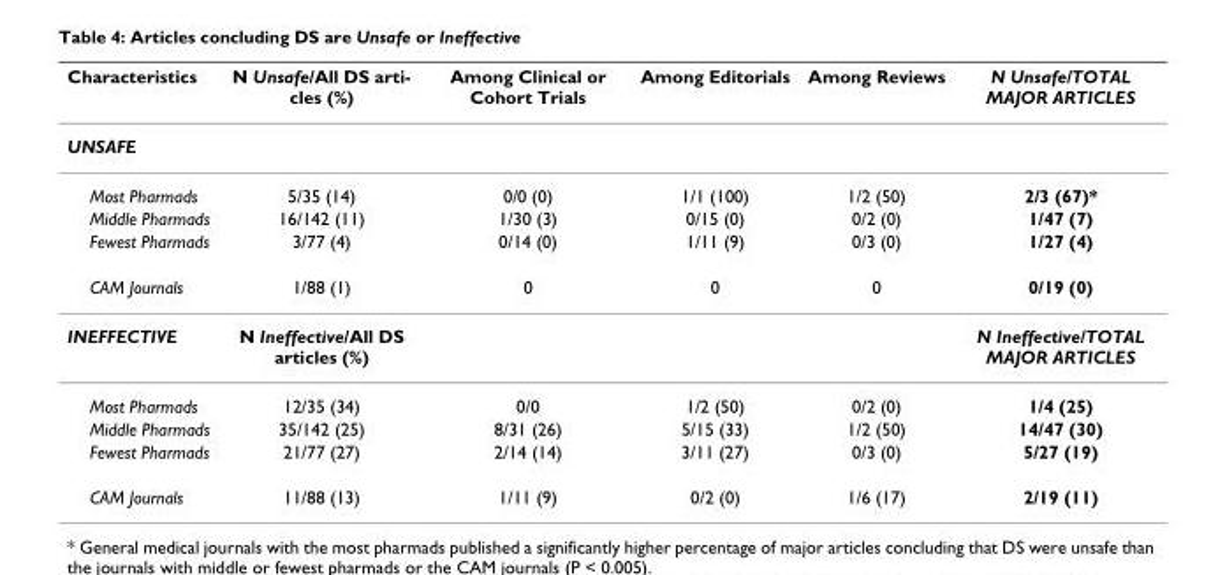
<table><thead><tr><td>Characteristics</td><td>N Unsafe/All DS arti- cles (%)</td><td>Among Clinical or Cohort Trials</td><td>Among Editorials</td><td>Among Reviews</td><td>N Unsafe/TOTAL MAJOR ARTICLES</td></tr></thead><tbody><tr><td colspan="6">UNSAFE</td></tr><tr><td>Most Pharmads</td><td>5/35 (14)</td><td>0/0 (0)</td><td>1/1 (100)</td><td>1/2 (50)</td><td>2/3 (67)*</td></tr><tr><td>Middle Pharmads</td><td>16/142 (11)</td><td>1/30 (3)</td><td>0/15 (0)</td><td>0/2 (0)</td><td>1/47 (7)</td></tr><tr><td>Fewest Pharmads</td><td>3/77 (4)</td><td>0/14 (0)</td><td>1/11 (9)</td><td>0/3 (0)</td><td>1/27 (4)</td></tr><tr><td>CAM Journals</td><td>1/88 (1)</td><td>0</td><td>0</td><td>0</td><td>0/19 (0)</td></tr><tr><td>INEFFECTIVE</td><td>N Ineffective/All DS articles (%)</td><td></td><td></td><td></td><td>N Ineffective/TOTAL MAJOR ARTICLES</td></tr><tr><td>Most Pharmads</td><td>12/35 (34)</td><td>0/0</td><td>1/2 (50)</td><td>0/2 (0)</td><td>1/4 (25)</td></tr><tr><td>Middle Pharmads</td><td>35/142 (25)</td><td>8/31 (26)</td><td>5/15 (33)</td><td>1/2 (50)</td><td>14/47 (30)</td></tr><tr><td>Fewest Pharmads</td><td>21/77 (27)</td><td>2/14 (14)</td><td>3/11 (27)</td><td>0/3 (0)</td><td>5/27 (19)</td></tr><tr><td>CAM Journals</td><td>11/88 (13)</td><td>1/11 (9)</td><td>0/2 (0)</td><td>1/6 (17)</td><td>2/19 (11)</td></tr></tbody></table>